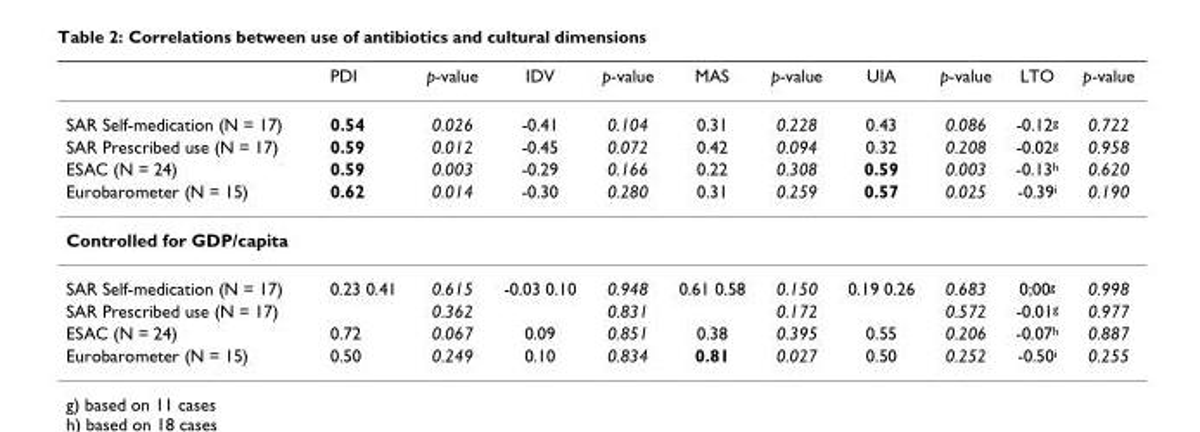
<table><thead><tr><td></td><td>PDI</td><td>p-value</td><td>IDV</td><td>p-value</td><td>MAS</td><td>p-value</td><td>UIA</td><td>p-value</td><td>LTO</td><td>p-value</td></tr></thead><tbody><tr><td>SAR Self-medication (N = 17)</td><td>0.54</td><td>0.026</td><td>-0.41</td><td>0.104</td><td>0.31</td><td>0.228</td><td>0.43</td><td>0.086</td><td>-0.12<sup>g</sup></td><td>0.722</td></tr><tr><td>SAR Prescribed use (N = 17)</td><td>0.59</td><td>0.012</td><td>-0.45</td><td>0.072</td><td>0.42</td><td>0.094</td><td>0.32</td><td>0.208</td><td>-0.02<sup>g</sup></td><td>0.958</td></tr><tr><td>ESAC (N = 24)</td><td>0.59</td><td>0.003</td><td>-0.29</td><td>0.166</td><td>0.22</td><td>0.308</td><td>0.59</td><td>0.003</td><td>-0.13<sup>h</sup></td><td>0.620</td></tr><tr><td>Eurobarometer (N = 15)</td><td>0.62</td><td>0.014</td><td>-0.30</td><td>0.280</td><td>0.31</td><td>0.259</td><td>0.57</td><td>0.025</td><td>-0.39<sup>i</sup></td><td>0.190</td></tr><tr><td colspan="11">Controlled for GDP/capita</td></tr><tr><td>SAR Self-medication (N = 17)</td><td>0.23 0.41</td><td>0.615</td><td>-0.03 0.10</td><td>0.948</td><td>0.61 0.58</td><td>0.150</td><td>0.19 0.26</td><td>0.683</td><td>0;00<sup>g</sup></td><td>0.998</td></tr><tr><td>SAR Prescribed use (N = 17)</td><td></td><td>0.362</td><td></td><td>0.831</td><td></td><td>0.172</td><td></td><td>0.572</td><td>-0.01<sup>g</sup></td><td>0.977</td></tr><tr><td>ESAC (N = 24)</td><td>0.72</td><td>0.067</td><td>0.09</td><td>0.851</td><td>0.38</td><td>0.395</td><td>0.55</td><td>0.206</td><td>-0.07<sup>h</sup></td><td>0.887</td></tr><tr><td>Eurobarometer (N = 15)</td><td>0.50</td><td>0.249</td><td>0.10</td><td>0.834</td><td>0.81</td><td>0.027</td><td>0.50</td><td>0.252</td><td>-0.50<sup>i</sup></td><td>0.255</td></tr></tbody></table>